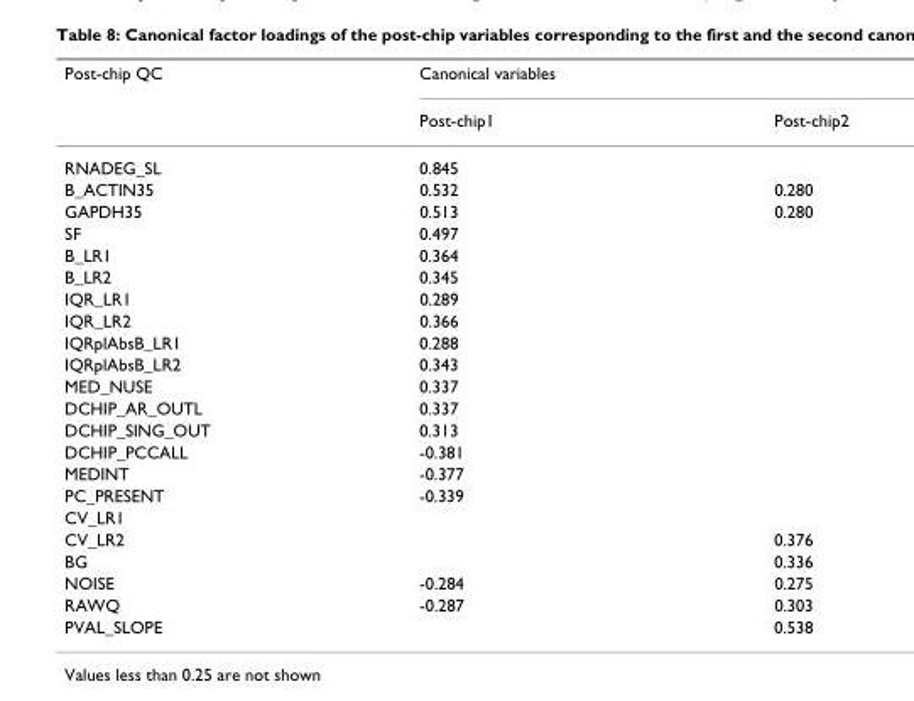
<table><thead><tr><td rowspan="2">Post-chip QC</td><td colspan="2">Canonical variables</td></tr><tr><td>Post-chip1</td><td>Post-chip2</td></tr></thead><tbody><tr><td>RNADEG_SL</td><td>0.845</td><td></td></tr><tr><td>B_ACTIN35</td><td>0.532</td><td>0.280</td></tr><tr><td>GAPDH35</td><td>0.513</td><td>0.280</td></tr><tr><td>SF</td><td>0.497</td><td></td></tr><tr><td>B_LR1</td><td>0.364</td><td></td></tr><tr><td>B_LR2</td><td>0.345</td><td></td></tr><tr><td>IQR_LR1</td><td>0.289</td><td></td></tr><tr><td>IQR_LR2</td><td>0.366</td><td></td></tr><tr><td>IQRplAbsB_LR1</td><td>0.288</td><td></td></tr><tr><td>IQRplAbsB_LR2</td><td>0.343</td><td></td></tr><tr><td>MED_NUSE</td><td>0.337</td><td></td></tr><tr><td>DCHIP_AR_OUTL</td><td>0.337</td><td></td></tr><tr><td>DCHIP_SING_OUT</td><td>0.313</td><td></td></tr><tr><td>DCHIP_PCCALL</td><td>-0.381</td><td></td></tr><tr><td>MEDINT</td><td>-0.377</td><td></td></tr><tr><td>PC_PRESENT</td><td>-0.339</td><td></td></tr><tr><td colspan="3">CV_LR1</td></tr><tr><td>CV_LR2</td><td></td><td>0.376</td></tr><tr><td>BG</td><td></td><td>0.336</td></tr><tr><td>NOISE</td><td>-0.284</td><td>0.275</td></tr><tr><td>RAWQ</td><td>-0.287</td><td>0.303</td></tr><tr><td>PVAL_SLOPE</td><td></td><td>0.538</td></tr></tbody></table>